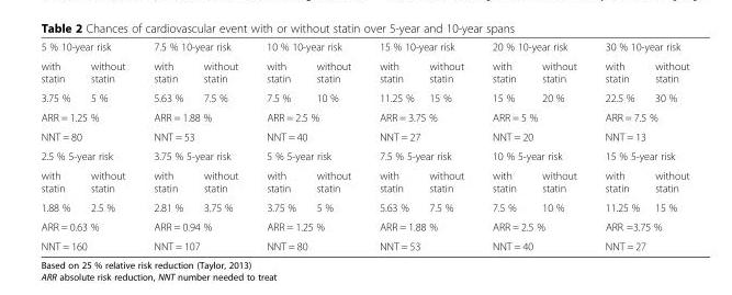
<table><tbody><tr><td colspan="2">5 % 10-year risk</td><td colspan="2">7.5 % 10-year risk</td><td colspan="2">10 % 10-year risk</td><td colspan="2">15 % 10-year risk</td><td colspan="2">20 % 10-year risk</td><td colspan="2">30 % 10-year risk</td></tr><tr><td>with statin</td><td>without statin</td><td>with statin</td><td>without statin</td><td>with statin</td><td>without statin</td><td>with statin</td><td>without statin</td><td>with statin</td><td>without statin</td><td>with statin</td><td>without statin</td></tr><tr><td>3.75 %</td><td>5 %</td><td>5.63 %</td><td>7.5 %</td><td>7.5 %</td><td>10 %</td><td>11.25 %</td><td>15 %</td><td>15 %</td><td>20 %</td><td>22.5 %</td><td>30 %</td></tr><tr><td colspan="2">ARR = 1.25 %</td><td colspan="2">ARR = 1.88 %</td><td colspan="2">ARR = 2.5 %</td><td colspan="2">ARR = 3.75 %</td><td colspan="2">ARR = 5 %</td><td colspan="2">ARR = 7.5 %</td></tr><tr><td colspan="2">NNT = 80</td><td colspan="2">NNT = 53</td><td colspan="2">NNT = 40</td><td colspan="2">NNT = 27</td><td colspan="2">NNT = 20</td><td colspan="2">NNT = 13</td></tr><tr><td colspan="2">2.5 % 5-year risk</td><td colspan="2">3.75 % 5-year risk</td><td colspan="2">5 % 5-year risk</td><td colspan="2">7.5 % 5-year risk</td><td colspan="2">10 % 5-year risk</td><td colspan="2">15 % 5-year risk</td></tr><tr><td>with statin</td><td>without statin</td><td>with statin</td><td>without statin</td><td>with statin</td><td>without statin</td><td>with statin</td><td>without statin</td><td>with statin</td><td>without statin</td><td>with statin</td><td>without statin</td></tr><tr><td>1.88 %</td><td>2.5 %</td><td>2.81 %</td><td>3.75 %</td><td>3.75 %</td><td>5 %</td><td>5.63 %</td><td>7.5 %</td><td>7.5 %</td><td>10 %</td><td>11.25 %</td><td>15 %</td></tr><tr><td colspan="2">ARR = 0.63 %</td><td colspan="2">ARR = 0.94 %</td><td colspan="2">ARR = 1.25 %</td><td colspan="2">ARR = 1.88 %</td><td colspan="2">ARR = 2.5 %</td><td colspan="2">ARR =3.75 %</td></tr><tr><td colspan="2">NNT = 160</td><td colspan="2">NNT = 107</td><td colspan="2">NNT = 80</td><td colspan="2">NNT = 53</td><td colspan="2">NNT = 40</td><td colspan="2">NNT = 27</td></tr></tbody></table>